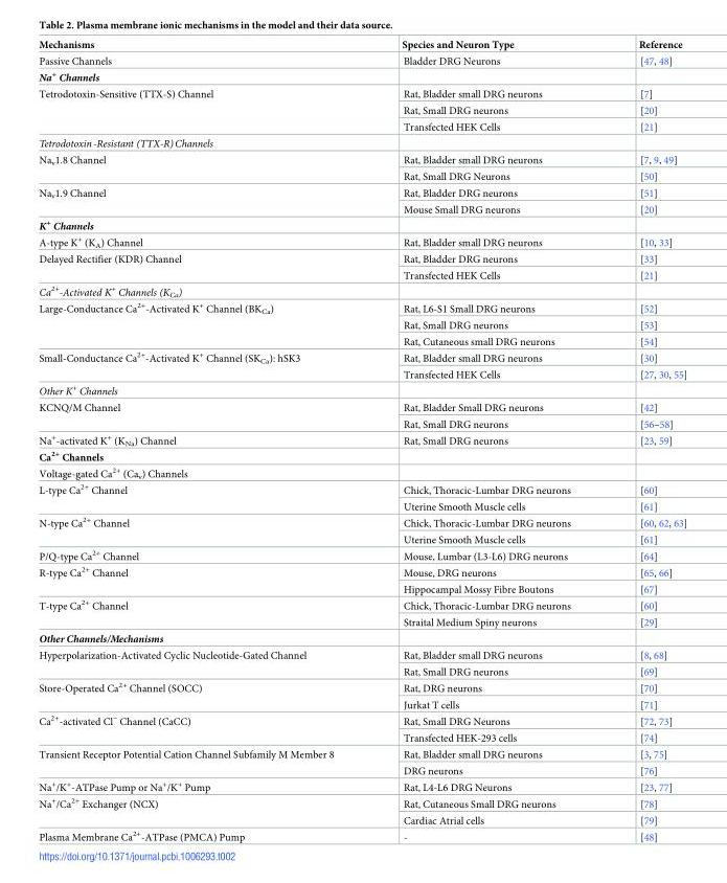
<table><thead><tr><td>Mechanisms</td><td>Species and Neuron Type</td><td>Reference</td></tr></thead><tbody><tr><td>Passive Channels</td><td>Bladder DRG Neurons</td><td>[47, 48]</td></tr><tr><td colspan="3">Na<sup>+</sup> Channels</td></tr><tr><td rowspan="3">Tetrodotoxin-Sensitive (TTX-S) Channel</td><td>Rat, Bladder small DRG neurons</td><td>[7]</td></tr><tr><td>Rat, Small DRG neurons</td><td>[20]</td></tr><tr><td>Transfected HEK Cells</td><td>[21]</td></tr><tr><td colspan="3">Tetrodotoxin-Resistant (TTX-R)Channels</td></tr><tr><td rowspan="2">Na<sub>v</sub>1.8 Channel</td><td>Rat, Bladder small DRG neurons</td><td>[7, 9, 49]</td></tr><tr><td>Rat, Small DRG Neurons</td><td>[50]</td></tr><tr><td rowspan="2">Na<sub>v</sub>1.9 Channel</td><td>Rat, Bladder DRG neurons</td><td>[51]</td></tr><tr><td>Mouse Small DRG neurons</td><td>[20]</td></tr><tr><td colspan="3">K<sup>+</sup> Channels</td></tr><tr><td>A-type K<sup>+</sup> (K<sub>A</sub>) Channel</td><td>Rat, Bladder small DRG neurons</td><td>[10, 33]</td></tr><tr><td rowspan="2">Delayed Rectifier (KDR) Channel</td><td>Rat, Bladder DRG neurons</td><td>[33]</td></tr><tr><td>Transfected HEK Cells</td><td>[21]</td></tr><tr><td colspan="3">Ca<sup>2+</sup>-Activated K<sup>+</sup> Channels (K<sub>Ca</sub>)</td></tr><tr><td rowspan="3">Large-Conductance Ca<sup>2+</sup>-Activated K<sup>+</sup> Channel (BK<sub>Ca</sub>)</td><td>Rat, L6-S1 Small DRG neurons</td><td>[52]</td></tr><tr><td>Rat, Small DRG neurons</td><td>[53]</td></tr><tr><td>Rat, Cutaneous small DRG neurons</td><td>[54]</td></tr><tr><td rowspan="2">Small-Conductance Ca<sup>2+</sup>-Activated K<sup>+</sup> Channel (SK<sub>Ca</sub>): hSK3</td><td>Rat, Bladder small DRG neurons</td><td>[30]</td></tr><tr><td>Transfected HEK Cells</td><td>[27, 30, 55]</td></tr><tr><td colspan="3">Other K<sup>+</sup> Channels</td></tr><tr><td rowspan="2">KCNQ/M Channel</td><td>Rat, Bladder Small DRG neurons</td><td>[42]</td></tr><tr><td>Rat, Small DRG neurons</td><td>[56–58]</td></tr><tr><td>Na<sup>+</sup>-activated K<sup>+</sup> (K<sub>Na</sub>) Channel</td><td>Rat, Small DRG neurons</td><td>[23, 59]</td></tr><tr><td colspan="3">Ca<sup>2+</sup> Channels</td></tr><tr><td colspan="3">Voltage-gated Ca<sup>2+</sup> (Ca<sub>v</sub>) Channels</td></tr><tr><td rowspan="2">L-type Ca<sup>2+</sup> Channel</td><td>Chick, Thoracic-Lumbar DRG neurons</td><td>[60]</td></tr><tr><td>Uterine Smooth Muscle cells</td><td>[61]</td></tr><tr><td rowspan="2">N-type Ca<sup>2+</sup> Channel</td><td>Chick, Thoracic-Lumbar DRG neurons</td><td>[60, 62, 63]</td></tr><tr><td>Uterine Smooth Muscle cells</td><td>[61]</td></tr><tr><td>P/Q-type Ca<sup>2+</sup> Channel</td><td>Mouse, Lumbar (L3-L6) DRG neurons</td><td>[64]</td></tr><tr><td rowspan="2">R-type Ca<sup>2+</sup> Channel</td><td>Mouse, DRG neurons</td><td>[65, 66]</td></tr><tr><td>Hippocampal Mossy Fibre Boutons</td><td>[67]</td></tr><tr><td rowspan="2">T-type Ca<sup>2+</sup> Channel</td><td>Chick, Thoracic-Lumbar DRG neurons</td><td>[60]</td></tr><tr><td>Straital Medium Spiny neurons</td><td>[29]</td></tr><tr><td colspan="3">Other Channels/Mechanisms</td></tr><tr><td rowspan="2">Hyperpolarization-Activated Cyclic Nucleotide-Gated Channel</td><td>Rat, Bladder small DRG neurons</td><td>[8, 68]</td></tr><tr><td>Rat, Small DRG neurons</td><td>[69]</td></tr><tr><td rowspan="2">Store-Operated Ca<sup>2+</sup> Channel (SOCC)</td><td>Rat, DRG neurons</td><td>[70]</td></tr><tr><td>Jurkat T cells</td><td>[71]</td></tr><tr><td rowspan="2">Ca<sup>2+</sup>-activated Cl<sup>−</sup> Channel (CaCC)</td><td>Rat, Small DRG Neurons</td><td>[72, 73]</td></tr><tr><td>Transfected HEK-293 cells</td><td>[74]</td></tr><tr><td rowspan="2">Transient Receptor Potential Cation Channel Subfamily M Member 8</td><td>Rat, Bladder small DRG neurons</td><td>[3, 75]</td></tr><tr><td>DRG neurons</td><td>[76]</td></tr><tr><td>Na<sup>+</sup>/K<sup>+</sup>-ATPase Pump or Na<sup>+</sup>/K<sup>+</sup> Pump</td><td>Rat, L4-L6 DRG Neurons</td><td>[23, 77]</td></tr><tr><td rowspan="2">Na<sup>+</sup>/Ca<sup>2+</sup> Exchanger (NCX)</td><td>Rat, Cutaneous Small DRG neurons</td><td>[78]</td></tr><tr><td>Cardiac Atrial cells</td><td>[79]</td></tr><tr><td>Plasma Membrane Ca<sup>2+</sup>-ATPase (PMCA) Pump</td><td>-</td><td>[48]</td></tr></tbody></table>